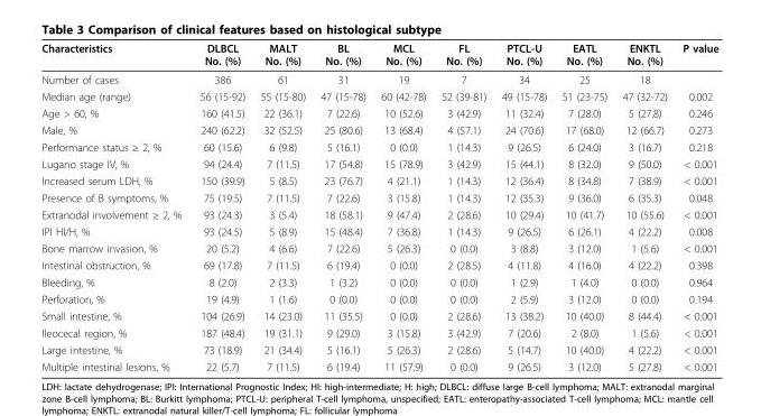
<table><thead><tr><td>Characteristics</td><td>DLBCL No. (%)</td><td>MALT No. (%)</td><td>BL No. (%)</td><td>MCL No. (%)</td><td>FL No. (%)</td><td>PTCL-U No. (%)</td><td>EATL No. (%)</td><td>ENKTL No. (%)</td><td>P value</td></tr></thead><tbody><tr><td>Number of cases</td><td>386</td><td>61</td><td>31</td><td>19</td><td>7</td><td>34</td><td>25</td><td>18</td><td></td></tr><tr><td>Median age (range)</td><td>56 (15-92)</td><td>55 (15-80)</td><td>47 (15-78)</td><td>60 (42-78)</td><td>52 (39-81)</td><td>49 (15-78)</td><td>51 (23-75)</td><td>47 (32-72)</td><td>0.002</td></tr><tr><td>Age &gt; 60, %</td><td>160 (41.5)</td><td>22 (36.1)</td><td>7 (22.6)</td><td>10 (52.6)</td><td>3 (42.9)</td><td>11 (32.4)</td><td>7 (28.0)</td><td>5 (27.8)</td><td>0.246</td></tr><tr><td>Male, %</td><td>240 (62.2)</td><td>32 (52.5)</td><td>25 (80.6)</td><td>13 (68.4)</td><td>4 (57.1)</td><td>24 (70.6)</td><td>17 (68.0)</td><td>12 (66.7)</td><td>0.273</td></tr><tr><td>Performance status ≥ 2, %</td><td>60 (15.6)</td><td>6 (9.8)</td><td>5 (16.1)</td><td>0 (0.0)</td><td>1 (14.3)</td><td>9 (26.5)</td><td>6 (24.0)</td><td>3 (16.7)</td><td>0.218</td></tr><tr><td>Lugano stage IV, %</td><td>94 (24.4)</td><td>7 (11.5)</td><td>17 (54.8)</td><td>15 (78.9)</td><td>3 (42.9)</td><td>15 (44.1)</td><td>8 (32.0)</td><td>9 (50.0)</td><td>&lt; 0.001</td></tr><tr><td>Increased serum LDH, %</td><td>150 (39.9)</td><td>5 (8.5)</td><td>23 (76.7)</td><td>4 (21.1)</td><td>1 (14.3)</td><td>12 (36.4)</td><td>8 (34.8)</td><td>7 (38.9)</td><td>&lt; 0.001</td></tr><tr><td>Presence of B symptoms, %</td><td>75 (19.5)</td><td>7 (11.5)</td><td>7 (22.6)</td><td>3 (15.8)</td><td>1 (14.3)</td><td>12 (35.3)</td><td>9 (36.0)</td><td>6 (35.3)</td><td>0.048</td></tr><tr><td>Extranodal involvement ≥ 2, %</td><td>93 (24.3)</td><td>3 (5.4)</td><td>18 (58.1)</td><td>9 (47.4)</td><td>2 (28.6)</td><td>10 (29.4)</td><td>10 (41.7)</td><td>10 (55.6)</td><td>&lt; 0.001</td></tr><tr><td>IPI HI/H, %</td><td>93 (24.5)</td><td>5 (8.9)</td><td>15 (48.4)</td><td>7 (36.8)</td><td>1 (14.3)</td><td>9 (26.5)</td><td>6 (26.1)</td><td>4 (22.2)</td><td>0.008</td></tr><tr><td>Bone marrow invasion, %</td><td>20 (5.2)</td><td>4 (6.6)</td><td>7 (22.6)</td><td>5 (26.3)</td><td>0 (0.0)</td><td>3 (8.8)</td><td>3 (12.0)</td><td>1 (5.6)</td><td>&lt; 0.001</td></tr><tr><td>Intestinal obstruction, %</td><td>69 (17.8)</td><td>7 (11.5)</td><td>6 (19.4)</td><td>0 (0.0)</td><td>2 (28.5)</td><td>4 (11.8)</td><td>4 (16.0)</td><td>4 (22.2)</td><td>0.398</td></tr><tr><td>Bleeding, %</td><td>8 (2.0)</td><td>2 (3.3)</td><td>1 (3.2)</td><td>0 (0.0)</td><td>0 (0.0)</td><td>1 (2.9)</td><td>1 (4.0)</td><td>0 (0.0)</td><td>0.964</td></tr><tr><td>Perforation, %</td><td>19 (4.9)</td><td>1 (1.6)</td><td>0 (0.0)</td><td>0 (0.0)</td><td>0 (0.0)</td><td>2 (5.9)</td><td>3 (12.0)</td><td>0 (0.0)</td><td>0.194</td></tr><tr><td>Small intestine, %</td><td>104 (26.9)</td><td>14 (23.0)</td><td>11 (35.5)</td><td>0 (0.0)</td><td>2 (28.6)</td><td>13 (38.2)</td><td>10 (40.0)</td><td>8 (44.4)</td><td>&lt; 0.001</td></tr><tr><td>Ileocecal region, %</td><td>187 (48.4)</td><td>19 (31.1)</td><td>9 (29.0)</td><td>3 (15.8)</td><td>3 (42.9)</td><td>7 (20.6)</td><td>2 (8.0)</td><td>1 (5.6)</td><td>&lt; 0.001</td></tr><tr><td>Large intestine, %</td><td>73 (18.9)</td><td>21 (34.4)</td><td>5 (16.1)</td><td>5 (26.3)</td><td>2 (28.6)</td><td>5 (14.7)</td><td>10 (40.0)</td><td>4 (22.2)</td><td>&lt; 0.001</td></tr><tr><td>Multiple intestinal lesions, %</td><td>22 (5.7)</td><td>7 (11.5)</td><td>6 (19.4)</td><td>11 (57.9)</td><td>0 (0.0)</td><td>9 (26.5)</td><td>3 (12.0)</td><td>5 (27.8)</td><td>&lt; 0.001</td></tr></tbody></table>